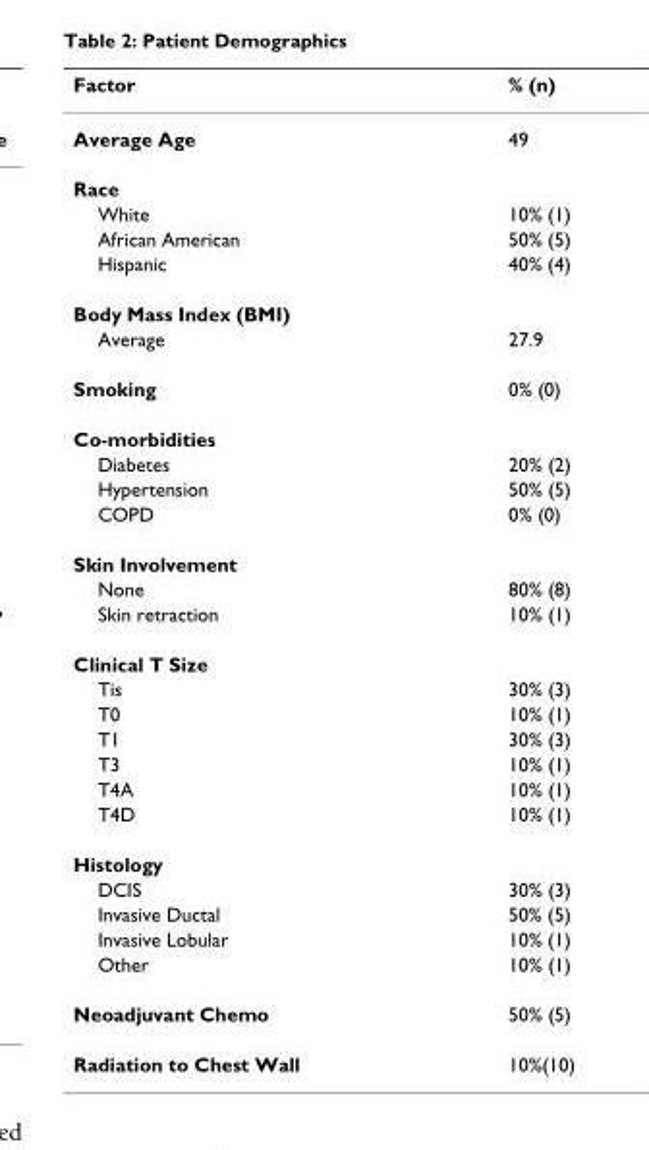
<table><thead><tr><td>Factor</td><td>% (n)</td></tr></thead><tbody><tr><td>Average Age</td><td>49</td></tr><tr><td colspan="2">Race</td></tr><tr><td>White</td><td>10% (1)</td></tr><tr><td>African American</td><td>50% (5)</td></tr><tr><td>Hispanic</td><td>40% (4)</td></tr><tr><td colspan="2">Body Mass Index (BMI)</td></tr><tr><td>Average</td><td>27.9</td></tr><tr><td>Smoking</td><td>0% (0)</td></tr><tr><td colspan="2">Co-morbidities</td></tr><tr><td>Diabetes</td><td>20% (2)</td></tr><tr><td>Hypertension</td><td>50% (5)</td></tr><tr><td>COPD</td><td>0% (0)</td></tr><tr><td colspan="2">Skin Involvement</td></tr><tr><td>None</td><td>80% (8)</td></tr><tr><td>Skin retraction</td><td>10% (1)</td></tr><tr><td colspan="2">Clinical T Size</td></tr><tr><td>Tis</td><td>30% (3)</td></tr><tr><td>T0</td><td>10% (1)</td></tr><tr><td>T1</td><td>30% (3)</td></tr><tr><td>T3</td><td>10% (1)</td></tr><tr><td>T4A</td><td>10% (1)</td></tr><tr><td>T4D</td><td>10% (1)</td></tr><tr><td colspan="2">Histology</td></tr><tr><td>DCIS</td><td>30% (3)</td></tr><tr><td>Invasive Ductal</td><td>50% (5)</td></tr><tr><td>Invasive Lobular</td><td>10% (1)</td></tr><tr><td>Other</td><td>10% (1)</td></tr><tr><td>Neoadjuvant Chemo</td><td>50% (5)</td></tr><tr><td>Radiation to Chest Wall</td><td>10%(10)</td></tr></tbody></table>